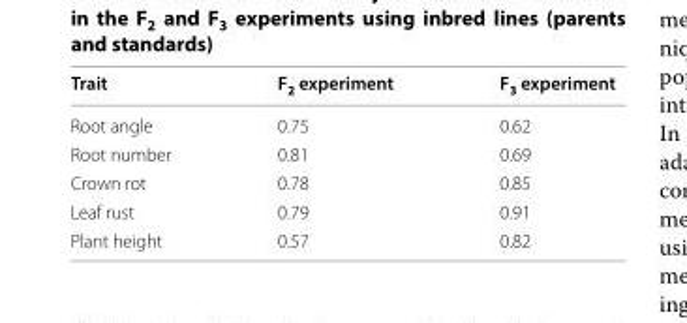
<table><thead><tr><td>Trait</td><td>F<sub>2</sub> experiment</td><td>F<sub>3</sub> experiment</td></tr></thead><tbody><tr><td>Root angle</td><td>0.75</td><td>0.62</td></tr><tr><td>Root number</td><td>0.81</td><td>0.69</td></tr><tr><td>Crown rot</td><td>0.78</td><td>0.85</td></tr><tr><td>Leaf rust</td><td>0.79</td><td>0.91</td></tr><tr><td>Plant height</td><td>0.57</td><td>0.82</td></tr></tbody></table>